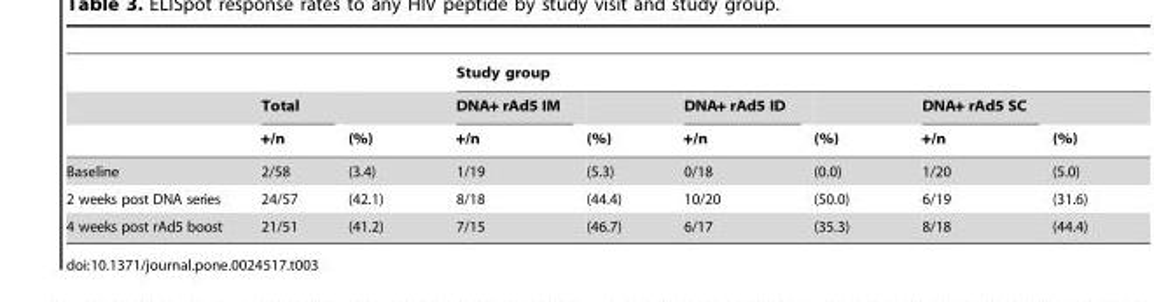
<table><thead><tr><td rowspan="3"></td><td rowspan="3">Total +/n</td><td rowspan="3">(%)</td><td colspan="6">Study group</td></tr><tr><td rowspan="2">DNA+ rAd5 IM +/n</td><td rowspan="2">(%)</td><td rowspan="2">DNA+ rAd5 ID +/n</td><td rowspan="2">(%)</td><td rowspan="2">DNA+ rAd5 SC +/n</td><td rowspan="2">(%)</td></tr><tr></tr></thead><tbody><tr><td>Baseline</td><td>2/58</td><td>(3.4)</td><td>1/19</td><td>(5.3)</td><td>0/18</td><td>(0.0)</td><td>1/20</td><td>(5.0)</td></tr><tr><td>2 weeks post DNA series</td><td>24/57</td><td>(42.1)</td><td>8/18</td><td>(44.4)</td><td>10/20</td><td>(50.0)</td><td>6/19</td><td>(31.6)</td></tr><tr><td>4 weeks post rAd5 boost</td><td>21/51</td><td>(41.2)</td><td>7/15</td><td>(46.7)</td><td>6/17</td><td>(35.3)</td><td>8/18</td><td>(44.4)</td></tr></tbody></table>